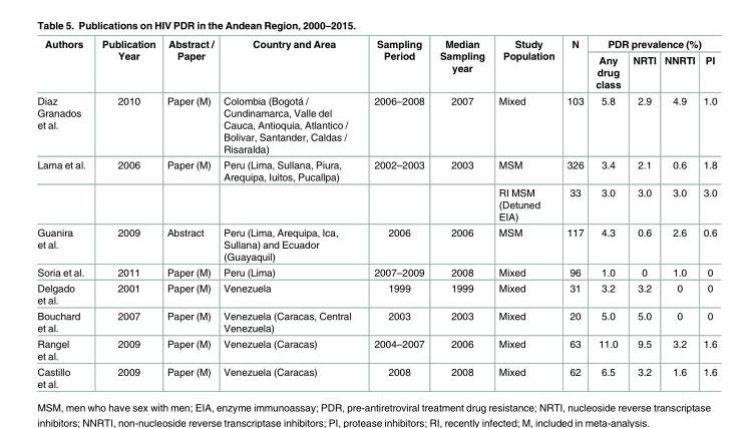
<table><thead><tr><td rowspan="2">Authors</td><td rowspan="2">Publication Year</td><td rowspan="2">Abstract / Paper</td><td rowspan="2">Country and Area</td><td rowspan="2">Sampling Period</td><td rowspan="2">Median Sampling year</td><td rowspan="2">Study Population</td><td rowspan="2">N</td><td colspan="4">PDR prevalence (%)</td></tr><tr><td>Any drug class</td><td>NRTI</td><td>NNRTI</td><td>PI</td></tr></thead><tbody><tr><td>Diaz Granados et al.</td><td>2010</td><td>Paper (M)</td><td>Colombia (Bogotá / Cundinamarca, Valle del Cauca, Antioquia, Atlantico / Bolivar, Santander, Caldas / Risaralda)</td><td>2006–2008</td><td>2007</td><td>Mixed</td><td>103</td><td>5.8</td><td>2.9</td><td>4.9</td><td>1.0</td></tr><tr><td rowspan="2">Lama et al.</td><td>2006</td><td>Paper (M)</td><td>Peru (Lima, Sullana, Piura, Arequipa, Iuitos, Pucallpa)</td><td>2002–2003</td><td>2003</td><td>MSM</td><td>326</td><td>3.4</td><td>2.1</td><td>0.6</td><td>1.8</td></tr><tr><td></td><td></td><td></td><td></td><td></td><td>RI MSM (Detuned EIA)</td><td>33</td><td>3.0</td><td>3.0</td><td>3.0</td><td>3.0</td></tr><tr><td>Guanira et al.</td><td>2009</td><td>Abstract</td><td>Peru (Lima, Arequipa, Ica, Sullana) and Ecuador (Guayaquil)</td><td>2006</td><td>2006</td><td>MSM</td><td>117</td><td>4.3</td><td>0.6</td><td>2.6</td><td>0.6</td></tr><tr><td>Soria et al.</td><td>2011</td><td>Paper (M)</td><td>Peru (Lima)</td><td>2007–2009</td><td>2008</td><td>Mixed</td><td>96</td><td>1.0</td><td>0</td><td>1.0</td><td>0</td></tr><tr><td>Delgado et al.</td><td>2001</td><td>Paper (M)</td><td>Venezuela</td><td>1999</td><td>1999</td><td>Mixed</td><td>31</td><td>3.2</td><td>3.2</td><td>0</td><td>0</td></tr><tr><td>Bouchard et al.</td><td>2007</td><td>Paper (M)</td><td>Venezuela (Caracas, Central Venezuela)</td><td>2003</td><td>2003</td><td>Mixed</td><td>20</td><td>5.0</td><td>5.0</td><td>0</td><td>0</td></tr><tr><td>Rangel et al.</td><td>2009</td><td>Paper (M)</td><td>Venezuela (Caracas)</td><td>2004–2007</td><td>2006</td><td>Mixed</td><td>63</td><td>11.0</td><td>9.5</td><td>3.2</td><td>1.6</td></tr><tr><td>Castillo et al.</td><td>2009</td><td>Paper (M)</td><td>Venezuela (Caracas)</td><td>2008</td><td>2008</td><td>Mixed</td><td>62</td><td>6.5</td><td>3.2</td><td>1.6</td><td>1.6</td></tr></tbody></table>